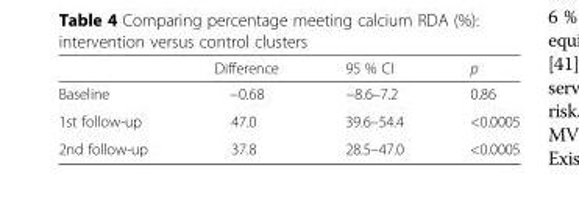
<table><thead><tr><td></td><td>Difference</td><td>95 % CI</td><td>p</td></tr></thead><tbody><tr><td>Baseline</td><td>−0.68</td><td>−8.6–7.2</td><td>0.86</td></tr><tr><td>1st follow-up</td><td>47.0</td><td>39.6–54.4</td><td>&lt;0.0005</td></tr><tr><td>2nd follow-up</td><td>37.8</td><td>28.5–47.0</td><td>&lt;0.0005</td></tr></tbody></table>